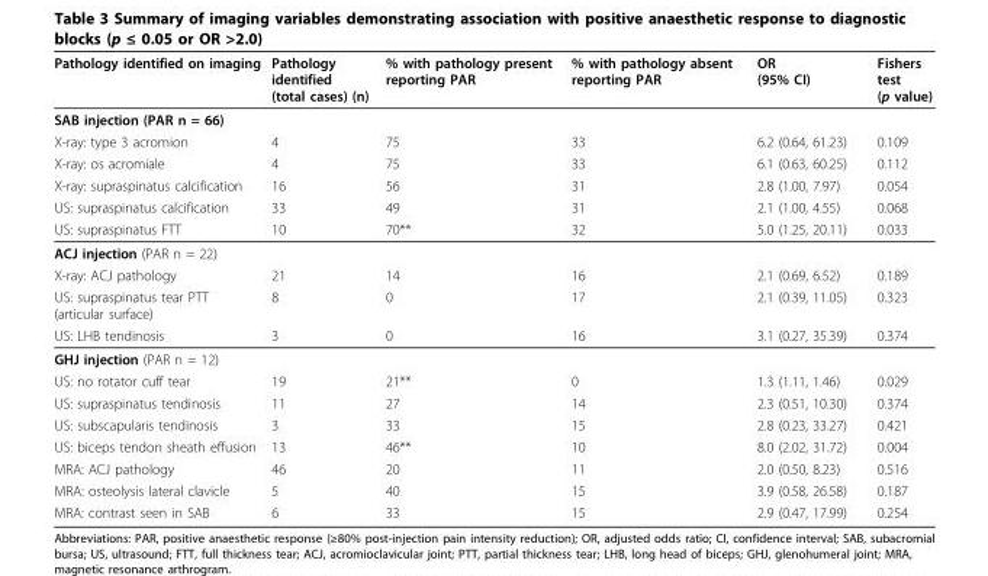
<table><thead><tr><td>Pathology identified on imaging</td><td>Pathology identified (total cases) (n)</td><td>% with pathology present reporting PAR</td><td>% with pathology absent reporting PAR</td><td>OR (95% CI)</td><td>Fishers test (p value)</td></tr></thead><tbody><tr><td colspan="6">SAB injection (PAR n = 66)</td></tr><tr><td>X-ray: type 3 acromion</td><td>4</td><td>75</td><td>33</td><td>6.2 (0.64, 61.23)</td><td>0.109</td></tr><tr><td>X-ray: os acromiale</td><td>4</td><td>75</td><td>33</td><td>6.1 (0.63, 60.25)</td><td>0.112</td></tr><tr><td>X-ray: supraspinatus calcification</td><td>16</td><td>56</td><td>31</td><td>2.8 (1.00, 7.97)</td><td>0.054</td></tr><tr><td>US: supraspinatus calcification</td><td>33</td><td>49</td><td>31</td><td>2.1 (1.00, 4.55)</td><td>0.068</td></tr><tr><td>US: supraspinatus FTT</td><td>10</td><td>70**</td><td>32</td><td>5.0 (1.25, 20.11)</td><td>0.033</td></tr><tr><td colspan="6">ACJ injection (PAR n = 22)</td></tr><tr><td>X-ray: ACJ pathology</td><td>21</td><td>14</td><td>16</td><td>2.1 (0.69, 6.52)</td><td>0.189</td></tr><tr><td>US: supraspinatus tear PTT (articular surface)</td><td>8</td><td>0</td><td>17</td><td>2.1 (0.39, 11.05)</td><td>0.323</td></tr><tr><td>US: LHB tendinosis</td><td>3</td><td>0</td><td>16</td><td>3.1 (0.27, 35.39)</td><td>0.374</td></tr><tr><td colspan="6">GHJ injection (PAR n = 12)</td></tr><tr><td>US: no rotator cuff tear</td><td>19</td><td>21**</td><td>0</td><td>1.3 (1.11, 1.46)</td><td>0.029</td></tr><tr><td>US: supraspinatus tendinosis</td><td>11</td><td>27</td><td>14</td><td>2.3 (0.51, 10.30)</td><td>0.374</td></tr><tr><td>US: subscapularis tendinosis</td><td>3</td><td>33</td><td>15</td><td>2.8 (0.23, 33.27)</td><td>0.421</td></tr><tr><td>US: biceps tendon sheath effusion</td><td>13</td><td>46**</td><td>10</td><td>8.0 (2.02, 31.72)</td><td>0.004</td></tr><tr><td>MRA: ACJ pathology</td><td>46</td><td>20</td><td>11</td><td>2.0 (0.50, 8.23)</td><td>0.516</td></tr><tr><td>MRA: osteolysis lateral clavicle</td><td>5</td><td>40</td><td>15</td><td>3.9 (0.58, 26.58)</td><td>0.187</td></tr><tr><td>MRA: contrast seen in SAB</td><td>6</td><td>33</td><td>15</td><td>2.9 (0.47, 17.99)</td><td>0.254</td></tr></tbody></table>